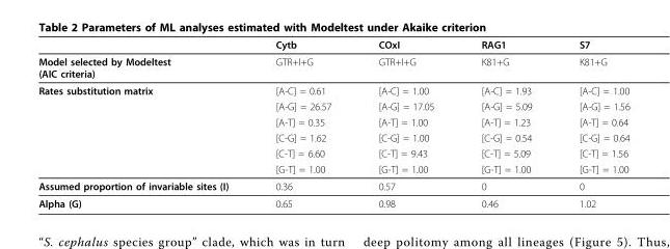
<table><thead><tr><td></td><td>Cytb</td><td>COxI</td><td>RAG1</td><td>S7</td></tr></thead><tbody><tr><td>Model selected by Modeltest (AIC criteria)</td><td>GTR+I+G</td><td>GTR+I+G</td><td>K81+G</td><td>K81+G</td></tr><tr><td rowspan="6">Rates substitution matrix</td><td>[A-C] = 0.61</td><td>[A-C] = 1.00</td><td>[A-C] = 1.93</td><td>[A-C] = 1.00</td></tr><tr><td>[A-G] = 26.57</td><td>[A-G] = 17.05</td><td>[A-G] = 5.09</td><td>[A-G] = 1.56</td></tr><tr><td>[A-T] = 0.35</td><td>[A-T] = 1.00</td><td>[A-T] = 1.23</td><td>[A-T] = 0.64</td></tr><tr><td>[C-G] = 1.62</td><td>[C-G] = 1.00</td><td>[C-G] = 0.54</td><td>[C-G] = 0.64</td></tr><tr><td>[C-T] = 6.60</td><td>[C-T] = 9.43</td><td>[C-T] = 5.09</td><td>[C-T] = 1.56</td></tr><tr><td>[G-T] = 1.00</td><td>[G-T] = 1.00</td><td>[G-T] = 1.00</td><td>[G-T] = 1.00</td></tr><tr><td>Assumed proportion of invariable sites (I)</td><td>0.36</td><td>0.57</td><td>0</td><td>0</td></tr><tr><td>Alpha (G)</td><td>0.65</td><td>0.98</td><td>0.46</td><td>1.02</td></tr></tbody></table>